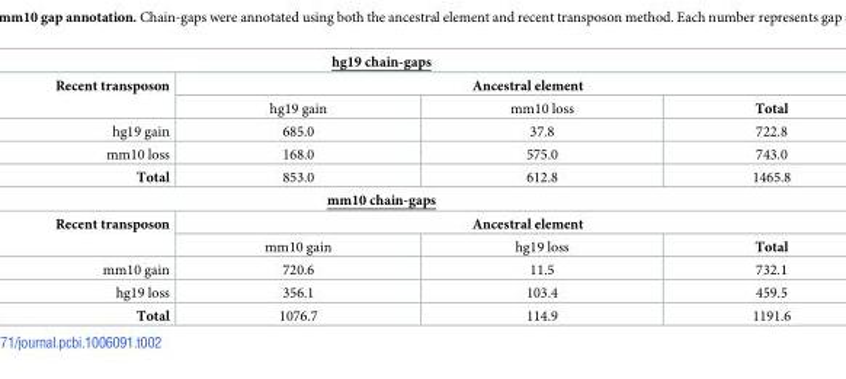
<table><tbody><tr><td colspan="4">hg19 chain-gaps</td></tr><tr><td rowspan="2">Recent transposon</td><td colspan="3">Ancestral element</td></tr><tr><td>hg19 gain</td><td>mm10 loss</td><td>Total</td></tr><tr><td>hg19 gain</td><td>685.0</td><td>37.8</td><td>722.8</td></tr><tr><td>mm10 loss</td><td>168.0</td><td>575.0</td><td>743.0</td></tr><tr><td>Total</td><td>853.0</td><td>612.8</td><td>1465.8</td></tr><tr><td colspan="4">mm10 chain-gaps</td></tr><tr><td rowspan="2">Recent transposon</td><td colspan="3">Ancestral element</td></tr><tr><td>mm10 gain</td><td>hg19 loss</td><td>Total</td></tr><tr><td>mm10 gain</td><td>720.6</td><td>11.5</td><td>732.1</td></tr><tr><td>hg19 loss</td><td>356.1</td><td>103.4</td><td>459.5</td></tr><tr><td>Total</td><td>1076.7</td><td>114.9</td><td>1191.6</td></tr></tbody></table>